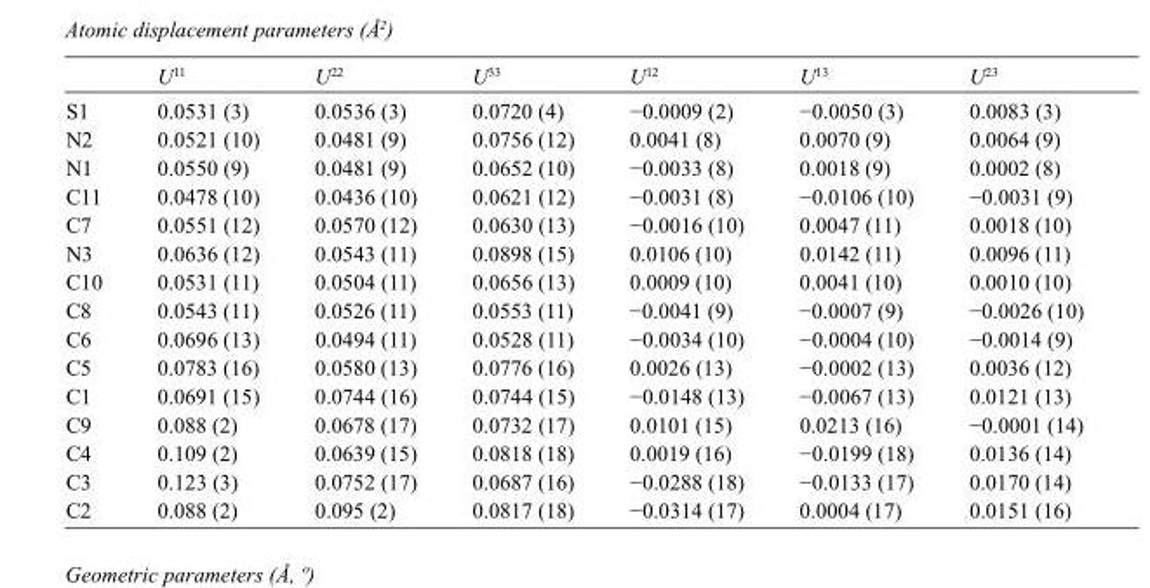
<table><thead><tr><td></td><td>U<sup>11</sup></td><td>U<sup>22</sup></td><td>U<sup>33</sup></td><td>U<sup>12</sup></td><td>U<sup>13</sup></td><td>U<sup>23</sup></td></tr></thead><tbody><tr><td>S1</td><td>0.0531 (3)</td><td>0.0536 (3)</td><td>0.0720 (4)</td><td>−0.0009 (2)</td><td>−0.0050 (3)</td><td>0.0083 (3)</td></tr><tr><td>N2</td><td>0.0521 (10)</td><td>0.0481 (9)</td><td>0.0756 (12)</td><td>0.0041 (8)</td><td>0.0070 (9)</td><td>0.0064 (9)</td></tr><tr><td>N1</td><td>0.0550 (9)</td><td>0.0481 (9)</td><td>0.0652 (10)</td><td>−0.0033 (8)</td><td>0.0018 (9)</td><td>0.0002 (8)</td></tr><tr><td>C11</td><td>0.0478 (10)</td><td>0.0436 (10)</td><td>0.0621 (12)</td><td>−0.0031 (8)</td><td>−0.0106 (10)</td><td>−0.0031 (9)</td></tr><tr><td>C7</td><td>0.0551 (12)</td><td>0.0570 (12)</td><td>0.0630 (13)</td><td>−0.0016 (10)</td><td>0.0047 (11)</td><td>0.0018 (10)</td></tr><tr><td>N3</td><td>0.0636 (12)</td><td>0.0543 (11)</td><td>0.0898 (15)</td><td>0.0106 (10)</td><td>0.0142 (11)</td><td>0.0096 (11)</td></tr><tr><td>C10</td><td>0.0531 (11)</td><td>0.0504 (11)</td><td>0.0656 (13)</td><td>0.0009 (10)</td><td>0.0041 (10)</td><td>0.0010 (10)</td></tr><tr><td>C8</td><td>0.0543 (11)</td><td>0.0526 (11)</td><td>0.0553 (11)</td><td>−0.0041 (9)</td><td>−0.0007 (9)</td><td>−0.0026 (10)</td></tr><tr><td>C6</td><td>0.0696 (13)</td><td>0.0494 (11)</td><td>0.0528 (11)</td><td>−0.0034 (10)</td><td>−0.0004 (10)</td><td>−0.0014 (9)</td></tr><tr><td>C5</td><td>0.0783 (16)</td><td>0.0580 (13)</td><td>0.0776 (16)</td><td>0.0026 (13)</td><td>−0.0002 (13)</td><td>0.0036 (12)</td></tr><tr><td>C1</td><td>0.0691 (15)</td><td>0.0744 (16)</td><td>0.0744 (15)</td><td>−0.0148 (13)</td><td>−0.0067 (13)</td><td>0.0121 (13)</td></tr><tr><td>C9</td><td>0.088 (2)</td><td>0.0678 (17)</td><td>0.0732 (17)</td><td>0.0101 (15)</td><td>0.0213 (16)</td><td>−0.0001 (14)</td></tr><tr><td>C4</td><td>0.109 (2)</td><td>0.0639 (15)</td><td>0.0818 (18)</td><td>0.0019 (16)</td><td>−0.0199 (18)</td><td>0.0136 (14)</td></tr><tr><td>C3</td><td>0.123 (3)</td><td>0.0752 (17)</td><td>0.0687 (16)</td><td>−0.0288 (18)</td><td>−0.0133 (17)</td><td>0.0170 (14)</td></tr><tr><td>C2</td><td>0.088 (2)</td><td>0.095 (2)</td><td>0.0817 (18)</td><td>−0.0314 (17)</td><td>0.0004 (17)</td><td>0.0151 (16)</td></tr></tbody></table>